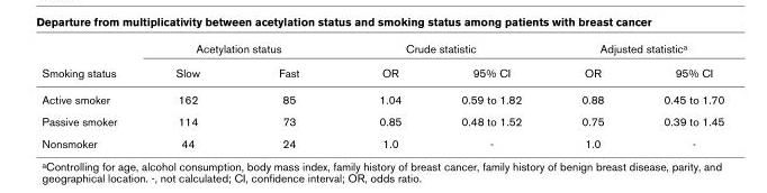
<table><thead><tr><td rowspan="2">Smoking status</td><td colspan="2">Acetylation status</td><td colspan="2">Crude statistic</td><td colspan="2">Adjusted statistica</td></tr><tr><td>Slow</td><td>Fast</td><td>OR</td><td>95% CI</td><td>OR</td><td>95% CI</td></tr></thead><tbody><tr><td>Active smoker</td><td>162</td><td>85</td><td>1.04</td><td>0.59 to 1.82</td><td>0.88</td><td>0.45 to 1.70</td></tr><tr><td>Passive smoker</td><td>114</td><td>73</td><td>0.85</td><td>0.48 to 1.52</td><td>0.75</td><td>0.39 to 1.45</td></tr><tr><td>Nonsmoker</td><td>44</td><td>24</td><td>1.0</td><td>-</td><td>1.0</td><td>-</td></tr></tbody></table>